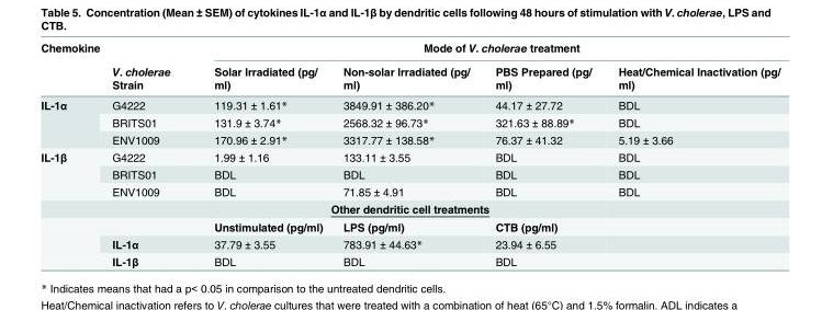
<table><thead><tr><td rowspan="2">Chemokine</td><td rowspan="2">V. cholerae Strain</td><td colspan="4">Mode of V. cholerae treatment</td></tr><tr><td>Solar Irradiated (pg/ ml)</td><td>Non-solar Irradiated (pg/ ml)</td><td>PBS Prepared (pg/ ml)</td><td>Heat/Chemical Inactivation (pg/ ml)</td></tr></thead><tbody><tr><td rowspan="3">IL-1α</td><td>G4222</td><td>119.31 ± 1.61*</td><td>3849.91 ± 386.20*</td><td>44.17 ± 27.72</td><td>BDL</td></tr><tr><td>BRITS01</td><td>131.9 ± 3.74*</td><td>2568.32 ± 96.73*</td><td>321.63 ± 88.89*</td><td>BDL</td></tr><tr><td>ENV1009</td><td>170.96 ± 2.91*</td><td>3317.77 ± 138.58*</td><td>76.37 ± 41.32</td><td>5.19 ± 3.66</td></tr><tr><td rowspan="7">IL-1β</td><td>G4222</td><td>1.99 ± 1.16</td><td>133.11 ± 3.55</td><td>BDL</td><td>BDL</td></tr><tr><td>BRITS01</td><td>BDL</td><td>BDL</td><td>BDL</td><td>BDL</td></tr><tr><td>ENV1009</td><td>BDL</td><td>71.85 ± 4.91</td><td>BDL</td><td>BDL</td></tr><tr><td></td><td colspan="3">Other dendritic cell treatments</td><td></td></tr><tr><td></td><td>Unstimulated (pg/ml)</td><td>LPS (pg/ml)</td><td>CTB (pg/ml)</td><td></td></tr><tr><td>IL-1α</td><td>37.79 ± 3.55</td><td>783.91 ± 44.63*</td><td>23.94 ± 6.55</td><td></td></tr><tr><td>IL-1β</td><td>BDL</td><td>BDL</td><td>BDL</td><td></td></tr></tbody></table>